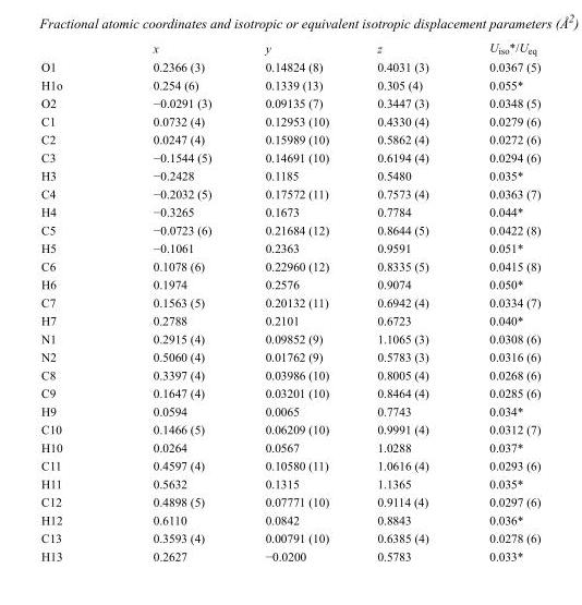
<table><thead><tr><td></td><td>x</td><td>y</td><td>z</td><td>U<sub>iso</sub>*/U<sub>eq</sub></td></tr></thead><tbody><tr><td>O1</td><td>0.2366 (3)</td><td>0.14824 (8)</td><td>0.4031 (3)</td><td>0.0367 (5)</td></tr><tr><td>H1o</td><td>0.254 (6)</td><td>0.1339 (13)</td><td>0.305 (4)</td><td>0.055*</td></tr><tr><td>O2</td><td>−0.0291 (3)</td><td>0.09135 (7)</td><td>0.3447 (3)</td><td>0.0348 (5)</td></tr><tr><td>C1</td><td>0.0732 (4)</td><td>0.12953 (10)</td><td>0.4330 (4)</td><td>0.0279 (6)</td></tr><tr><td>C2</td><td>0.0247 (4)</td><td>0.15989 (10)</td><td>0.5862 (4)</td><td>0.0272 (6)</td></tr><tr><td>C3</td><td>−0.1544 (5)</td><td>0.14691 (10)</td><td>0.6194 (4)</td><td>0.0294 (6)</td></tr><tr><td>H3</td><td>−0.2428</td><td>0.1185</td><td>0.5480</td><td>0.035*</td></tr><tr><td>C4</td><td>−0.2032 (5)</td><td>0.17572 (11)</td><td>0.7573 (4)</td><td>0.0363 (7)</td></tr><tr><td>H4</td><td>−0.3265</td><td>0.1673</td><td>0.7784</td><td>0.044*</td></tr><tr><td>C5</td><td>−0.0723 (6)</td><td>0.21684 (12)</td><td>0.8644 (5)</td><td>0.0422 (8)</td></tr><tr><td>H5</td><td>−0.1061</td><td>0.2363</td><td>0.9591</td><td>0.051*</td></tr><tr><td>C6</td><td>0.1078 (6)</td><td>0.22960 (12)</td><td>0.8335 (5)</td><td>0.0415 (8)</td></tr><tr><td>H6</td><td>0.1974</td><td>0.2576</td><td>0.9074</td><td>0.050*</td></tr><tr><td>C7</td><td>0.1563 (5)</td><td>0.20132 (11)</td><td>0.6942 (4)</td><td>0.0334 (7)</td></tr><tr><td>H7</td><td>0.2788</td><td>0.2101</td><td>0.6723</td><td>0.040*</td></tr><tr><td>N1</td><td>0.2915 (4)</td><td>0.09852 (9)</td><td>1.1065 (3)</td><td>0.0308 (6)</td></tr><tr><td>N2</td><td>0.5060 (4)</td><td>0.01762 (9)</td><td>0.5783 (3)</td><td>0.0316 (6)</td></tr><tr><td>C8</td><td>0.3397 (4)</td><td>0.03986 (10)</td><td>0.8005 (4)</td><td>0.0268 (6)</td></tr><tr><td>C9</td><td>0.1647 (4)</td><td>0.03201 (10)</td><td>0.8464 (4)</td><td>0.0285 (6)</td></tr><tr><td>H9</td><td>0.0594</td><td>0.0065</td><td>0.7743</td><td>0.034*</td></tr><tr><td>C10</td><td>0.1466 (5)</td><td>0.06209 (10)</td><td>0.9991 (4)</td><td>0.0312 (7)</td></tr><tr><td>H10</td><td>0.0264</td><td>0.0567</td><td>1.0288</td><td>0.037*</td></tr><tr><td>C11</td><td>0.4597 (4)</td><td>0.10580 (11)</td><td>1.0616 (4)</td><td>0.0293 (6)</td></tr><tr><td>H11</td><td>0.5632</td><td>0.1315</td><td>1.1365</td><td>0.035*</td></tr><tr><td>C12</td><td>0.4898 (5)</td><td>0.07771 (10)</td><td>0.9114 (4)</td><td>0.0297 (6)</td></tr><tr><td>H12</td><td>0.6110</td><td>0.0842</td><td>0.8843</td><td>0.036*</td></tr><tr><td>C13</td><td>0.3593 (4)</td><td>0.00791 (10)</td><td>0.6385 (4)</td><td>0.0278 (6)</td></tr><tr><td>H13</td><td>0.2627</td><td>−0.0200</td><td>0.5783</td><td>0.033*</td></tr></tbody></table>